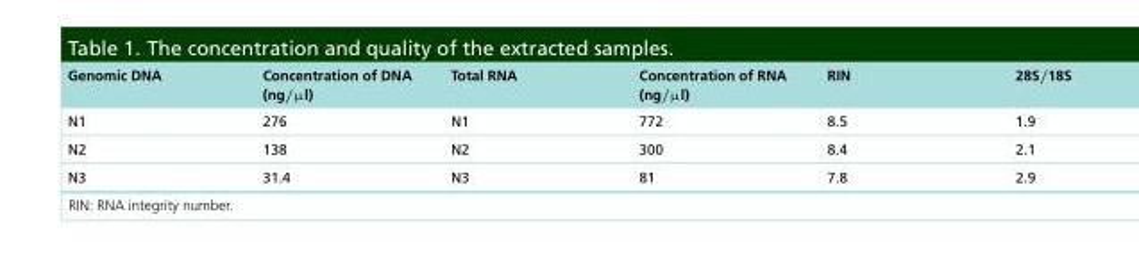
<table><thead><tr><td>Genomic DNA</td><td>Concentration of DNA (ng/μl)</td><td>Total RNA</td><td>Concentration of RNA (ng/μl)</td><td>RIN</td><td>28S/18S</td></tr></thead><tbody><tr><td>N1</td><td>276</td><td>N1</td><td>772</td><td>8.5</td><td>1.9</td></tr><tr><td>N2</td><td>138</td><td>N2</td><td>300</td><td>8.4</td><td>2.1</td></tr><tr><td>N3</td><td>31.4</td><td>N3</td><td>81</td><td>7.8</td><td>2.9</td></tr></tbody></table>